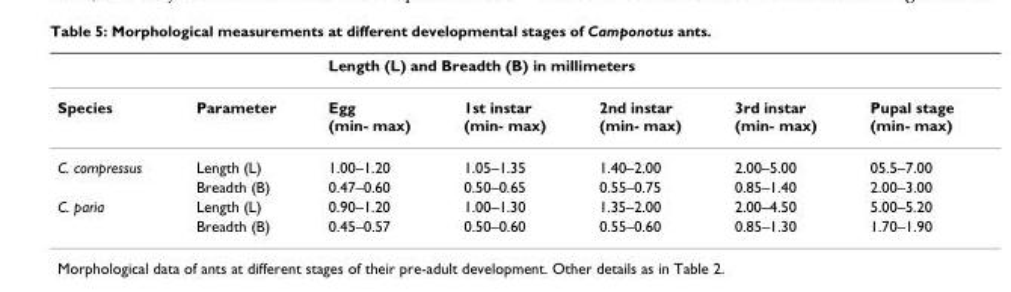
<table><thead><tr><td rowspan="2">Species</td><td rowspan="2">Parameter</td><td colspan="5">Length (L) and Breadth (B) in millimeters</td></tr><tr><td>Egg (min- max)</td><td>1st instar (min- max)</td><td>2nd instar (min- max)</td><td>3rd instar (min- max)</td><td>Pupal stage (min- max)</td></tr></thead><tbody><tr><td rowspan="2">C. compressus</td><td>Length (L)</td><td>1.00–1.20</td><td>1.05–1.35</td><td>1.40–2.00</td><td>2.00–5.00</td><td>05.5–7.00</td></tr><tr><td>Breadth (B)</td><td>0.47–0.60</td><td>0.50–0.65</td><td>0.55–0.75</td><td>0.85–1.40</td><td>2.00–3.00</td></tr><tr><td rowspan="2">C. paria</td><td>Length (L)</td><td>0.90–1.20</td><td>1.00–1.30</td><td>1.35–2.00</td><td>2.00–4.50</td><td>5.00–5.20</td></tr><tr><td>Breadth (B)</td><td>0.45–0.57</td><td>0.50–0.60</td><td>0.55–0.60</td><td>0.85–1.30</td><td>1.70–1.90</td></tr></tbody></table>